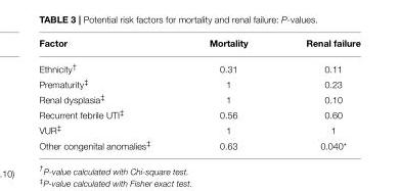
<table><thead><tr><td>Factor</td><td>Mortality</td><td>Renal failure</td></tr></thead><tbody><tr><td>Ethnicity<sup>†</sup></td><td>0.31</td><td>0.11</td></tr><tr><td>Prematurity<sup>‡</sup></td><td>1</td><td>0.23</td></tr><tr><td>Renal dysplasia<sup>‡</sup></td><td>1</td><td>0.10</td></tr><tr><td>Recurrent febrile UTI<sup>‡</sup></td><td>0.56</td><td>0.60</td></tr><tr><td>VUR<sup>‡</sup></td><td>1</td><td>1</td></tr><tr><td>Other congenital anomalies<sup>‡</sup></td><td>0.63</td><td>0.040*</td></tr></tbody></table>